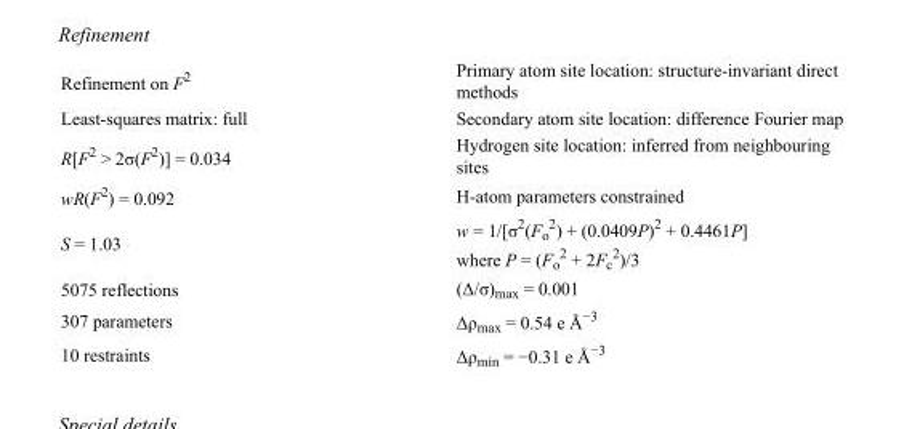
<table><tbody><tr><td>Refinement on F<sup>2</sup></td><td>Primary atom site location: structure-invariant direct methods</td></tr><tr><td>Least-squares matrix: full</td><td>Secondary atom site location: difference Fourier map</td></tr><tr><td>R[F<sup>2</sup> &gt; 2σ(F<sup>2</sup>)] = 0.034</td><td>Hydrogen site location: inferred from neighbouring sites</td></tr><tr><td>wR(F<sup>2</sup>) = 0.092</td><td>H-atom parameters constrained</td></tr><tr><td>S = 1.03</td><td>w = 1/[σ<sup>2</sup>(F<sub>o</sub> <sup>2</sup>) + (0.0409P)<sup>2</sup> + 0.4461P] where P = (F<sub>o</sub> <sup>2</sup> + 2F<sub>c</sub> <sup>2</sup>)/3</td></tr><tr><td>5075 reflections</td><td>(Δ/σ)<sub>max</sub> = 0.001</td></tr><tr><td>307 parameters</td><td>Δρ<sub>max</sub> = 0.54 e Å<sup>−3</sup></td></tr><tr><td>10 restraints</td><td>Δρ<sub>min</sub> = −0.31 e Å<sup>−3</sup></td></tr></tbody></table>